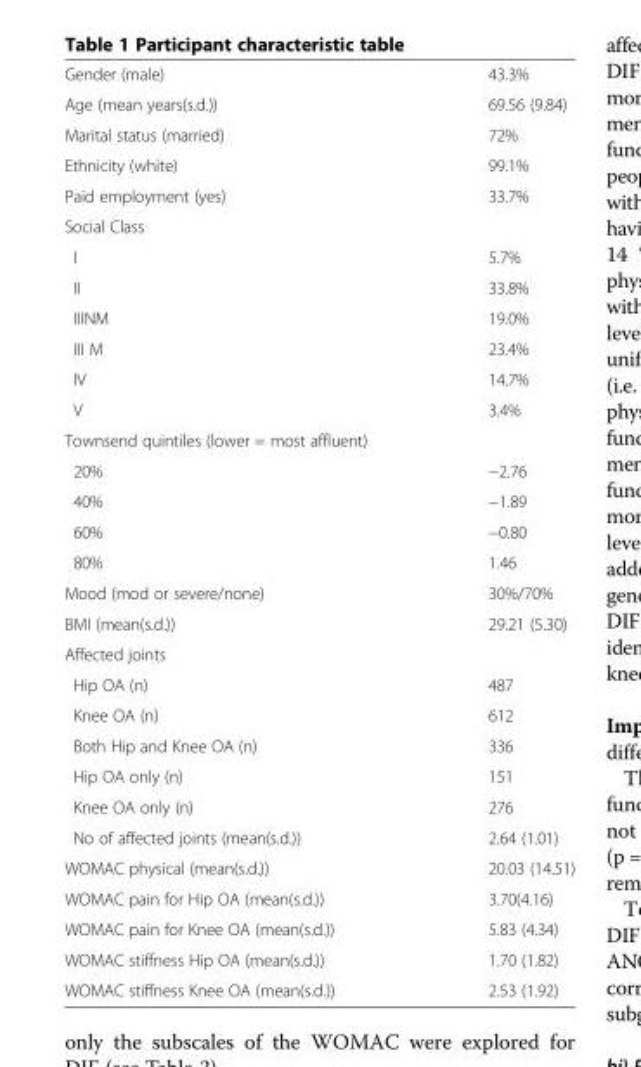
<table><tbody><tr><td>Gender (male)</td><td>43.3%</td></tr><tr><td>Age (mean years(s.d.))</td><td>69.56 (9.84)</td></tr><tr><td>Marital status (married)</td><td>72%</td></tr><tr><td>Ethnicity (white)</td><td>99.1%</td></tr><tr><td>Paid employment (yes)</td><td>33.7%</td></tr><tr><td colspan="2">Social Class</td></tr><tr><td>I</td><td>5.7%</td></tr><tr><td>II</td><td>33.8%</td></tr><tr><td>IIINM</td><td>19.0%</td></tr><tr><td>III M</td><td>23.4%</td></tr><tr><td>IV</td><td>14.7%</td></tr><tr><td>V</td><td>3.4%</td></tr><tr><td colspan="2">Townsend quintiles (lower = most affluent)</td></tr><tr><td>20%</td><td>−2.76</td></tr><tr><td>40%</td><td>−1.89</td></tr><tr><td>60%</td><td>−0.80</td></tr><tr><td>80%</td><td>1.46</td></tr><tr><td>Mood (mod or severe/none)</td><td>30%/70%</td></tr><tr><td>BMI (mean(s.d.))</td><td>29.21 (5.30)</td></tr><tr><td colspan="2">Affected joints</td></tr><tr><td>Hip OA (n)</td><td>487</td></tr><tr><td>Knee OA (n)</td><td>612</td></tr><tr><td>Both Hip and Knee OA (n)</td><td>336</td></tr><tr><td>Hip OA only (n)</td><td>151</td></tr><tr><td>Knee OA only (n)</td><td>276</td></tr><tr><td>No of affected joints (mean(s.d.))</td><td>2.64 (1.01)</td></tr><tr><td>WOMAC physical (mean(s.d.))</td><td>20.03 (14.51)</td></tr><tr><td>WOMAC pain for Hip OA (mean(s.d.))</td><td>3.70(4.16)</td></tr><tr><td>WOMAC pain for Knee OA (mean(s.d.))</td><td>5.83 (4.34)</td></tr><tr><td>WOMAC stiffness Hip OA (mean(s.d.))</td><td>1.70 (1.82)</td></tr><tr><td>WOMAC stiffness Knee OA (mean(s.d.))</td><td>2.53 (1.92)</td></tr></tbody></table>